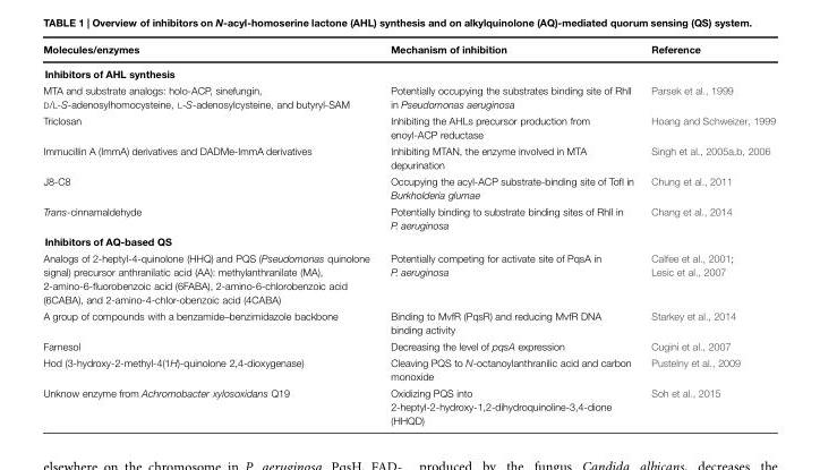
<table><thead><tr><td>Molecules/enzymes</td><td>Mechanism of inhibition</td><td>Reference</td></tr></thead><tbody><tr><td colspan="3">Inhibitors of AHL synthesis</td></tr><tr><td>MTA and substrate analogs: holo-ACP, sinefungin, D/L-S-adenosylhomocysteine, L-S-adenosylcysteine, and butyryl-SAM</td><td>Potentially occupying the substrates binding site of RhlI in Pseudomonas aeruginosa</td><td>Parsek et al., 1999</td></tr><tr><td>Triclosan</td><td>Inhibiting the AHLs precursor production from enoyl-ACP reductase</td><td>Hoang and Schweizer, 1999</td></tr><tr><td>Immucillin A (ImmA) derivatives and DADMe-ImmA derivatives</td><td>Inhibiting MTAN, the enzyme involved in MTA depurination</td><td>Singh et al., 2005a,b, 2006</td></tr><tr><td>J8-C8</td><td>Occupying the acyl-ACP substrate-binding site of TofI in Burkholderia glumae</td><td>Chung et al., 2011</td></tr><tr><td>Trans-cinnamaldehyde</td><td>Potentially binding to substrate binding sites of RhlI in P. aeruginosa</td><td>Chang et al., 2014</td></tr><tr><td colspan="3">Inhibitors of AQ-based QS</td></tr><tr><td>Analogs of 2-heptyl-4-quinolone (HHQ) and PQS (Pseudomonas quinolone signal) precursor anthranilatic acid (AA): methylanthranilate (MA), 2-amino-6-fluorobenzoic acid (6FABA), 2-amino-6-chlorobenzoic acid (6CABA), and 2-amino-4-chlor-obenzoic acid (4CABA)</td><td>Potentially competing for activate site of PqsA in P. aeruginosa</td><td>Calfee et al., 2001; Lesic et al., 2007</td></tr><tr><td>A group of compounds with a benzamide–benzimidazole backbone</td><td>Binding to MvfR (PqsR) and reducing MvfR DNA binding activity</td><td>Starkey et al., 2014</td></tr><tr><td>Farnesol</td><td>Decreasing the level of pqsA expression</td><td>Cugini et al., 2007</td></tr><tr><td>Hod (3-hydroxy-2-methyl-4(1H)-quinolone 2,4-dioxygenase)</td><td>Cleaving PQS to N-octanoylanthranilic acid and carbon monoxide</td><td>Pustelny et al., 2009</td></tr><tr><td>Unknow enzyme from Achromobacter xylosoxidans Q19</td><td>Oxidizing PQS into 2-heptyl-2-hydroxy-1,2-dihydroquinoline-3,4-dione (HHQD)</td><td>Soh et al., 2015</td></tr></tbody></table>